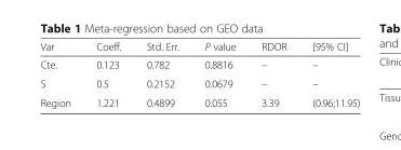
<table><thead><tr><td>Var</td><td>Coeff.</td><td>Std. Err.</td><td>P value</td><td>RDOR</td><td>[95% CI]</td></tr></thead><tbody><tr><td>Cte.</td><td>0.123</td><td>0.782</td><td>0.8816</td><td>–</td><td>–</td></tr><tr><td>S</td><td>0.5</td><td>0.2152</td><td>0.0679</td><td>–</td><td>–</td></tr><tr><td>Region</td><td>1.221</td><td>0.4899</td><td>0.055</td><td>3.39</td><td>(0.96;11.95)</td></tr></tbody></table>